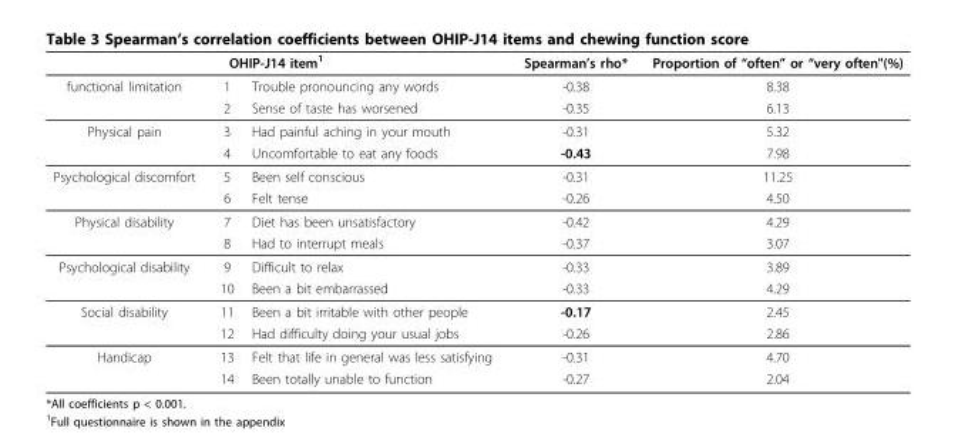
<table><thead><tr><td colspan="3">OHIP-J14 item<sup>1</sup></td><td rowspan="3">Spearman’s rho* -0.38 -0.35</td><td rowspan="3">Proportion of “often” or “very often&quot;(%) 8.38 6.13</td></tr><tr><td rowspan="2">functional limitation</td><td rowspan="2">1 2</td><td rowspan="2">Trouble pronouncing any words Sense of taste has worsened</td></tr><tr></tr></thead><tbody><tr><td rowspan="2">Physical pain</td><td>3</td><td>Had painful aching in your mouth</td><td>-0.31</td><td>5.32</td></tr><tr><td>4</td><td>Uncomfortable to eat any foods</td><td>-0.43</td><td>7.98</td></tr><tr><td rowspan="2">Psychological discomfort</td><td>5</td><td>Been self conscious</td><td>-0.31</td><td>11.25</td></tr><tr><td>6</td><td>Felt tense</td><td>-0.26</td><td>4.50</td></tr><tr><td rowspan="2">Physical disability</td><td>7</td><td>Diet has been unsatisfactory</td><td>-0.42</td><td>4.29</td></tr><tr><td>8</td><td>Had to interrupt meals</td><td>-0.37</td><td>3.07</td></tr><tr><td rowspan="2">Psychological disability</td><td>9</td><td>Difficult to relax</td><td>-0.33</td><td>3.89</td></tr><tr><td>10</td><td>Been a bit embarrassed</td><td>-0.33</td><td>4.29</td></tr><tr><td rowspan="2">Social disability</td><td>11</td><td>Been a bit irritable with other people</td><td>-0.17</td><td>2.45</td></tr><tr><td>12</td><td>Had difficulty doing your usual jobs</td><td>-0.26</td><td>2.86</td></tr><tr><td rowspan="2">Handicap</td><td>13</td><td>Felt that life in general was less satisfying</td><td>-0.31</td><td>4.70</td></tr><tr><td>14</td><td>Been totally unable to function</td><td>-0.27</td><td>2.04</td></tr></tbody></table>